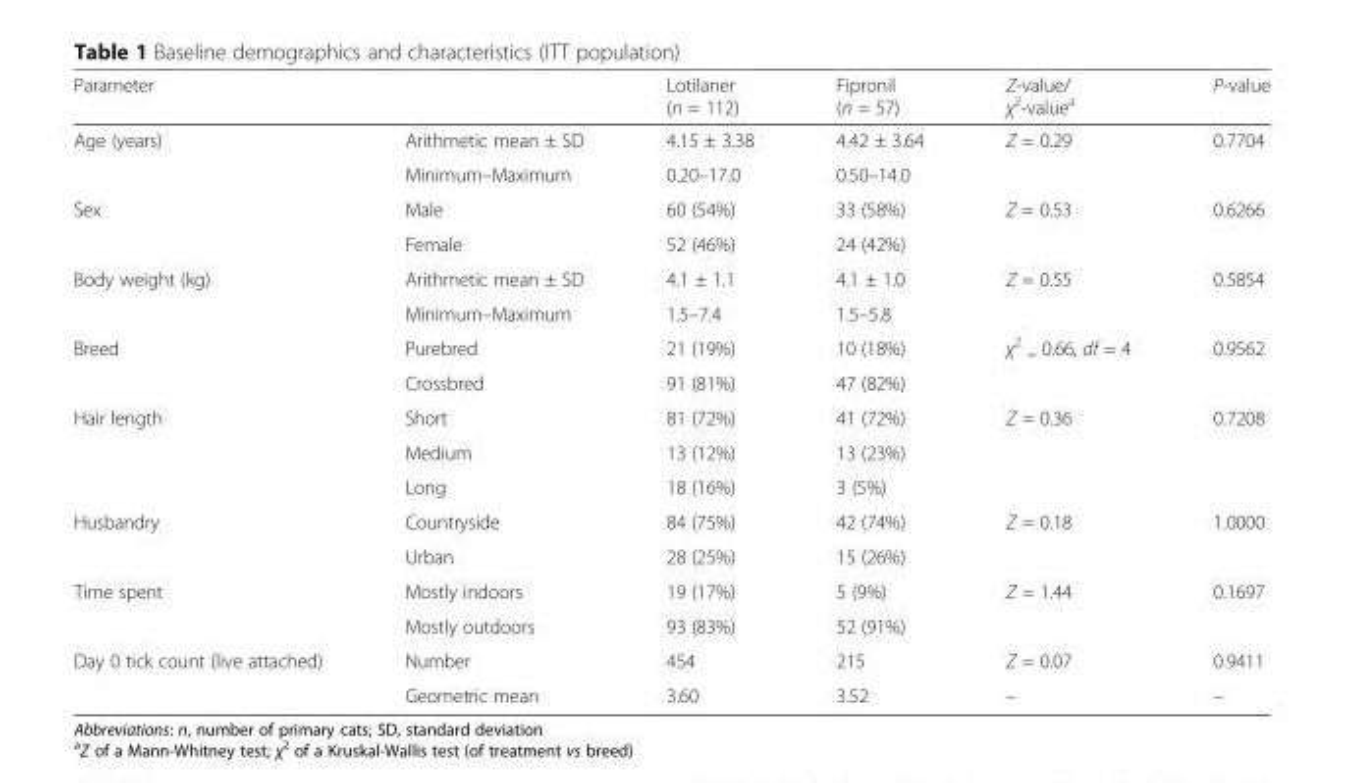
<table><thead><tr><td>Parameter</td><td></td><td>Lotilaner (n = 112)</td><td>Fipronil (n = 57)</td><td>Z-value/ χ<sup>2</sup>-value<sup>a</sup></td><td>P-value</td></tr></thead><tbody><tr><td rowspan="2">Age (years)</td><td>Arithmetic mean ± SD</td><td>4.15 ± 3.38</td><td>4.42 ± 3.64</td><td rowspan="2">Z = 0.29</td><td rowspan="2">0.7704</td></tr><tr><td>Minimum–Maximum</td><td>0.20–17.0</td><td>0.50–14.0</td></tr><tr><td rowspan="2">Sex</td><td>Male</td><td>60 (54%)</td><td>33 (58%)</td><td rowspan="2">Z = 0.53</td><td rowspan="2">0.6266</td></tr><tr><td>Female</td><td>52 (46%)</td><td>24 (42%)</td></tr><tr><td rowspan="2">Body weight (kg)</td><td>Arithmetic mean ± SD</td><td>4.1 ± 1.1</td><td>4.1 ± 1.0</td><td rowspan="2">Z = 0.55</td><td rowspan="2">0.5854</td></tr><tr><td>Minimum–Maximum</td><td>1.5–7.4</td><td>1.5–5.8</td></tr><tr><td rowspan="2">Breed</td><td>Purebred</td><td>21 (19%)</td><td>10 (18%)</td><td rowspan="2">χ<sup>2</sup> <sub>=</sub> 0.66, df = 4</td><td rowspan="2">0.9562</td></tr><tr><td>Crossbred</td><td>91 (81%)</td><td>47 (82%)</td></tr><tr><td rowspan="3">Hair length</td><td>Short</td><td>81 (72%)</td><td>41 (72%)</td><td rowspan="3">Z = 0.36</td><td rowspan="3">0.7208</td></tr><tr><td>Medium</td><td>13 (12%)</td><td>13 (23%)</td></tr><tr><td>Long</td><td>18 (16%)</td><td>3 (5%)</td></tr><tr><td rowspan="2">Husbandry</td><td>Countryside</td><td>84 (75%)</td><td>42 (74%)</td><td rowspan="2">Z = 0.18</td><td rowspan="2">1.0000</td></tr><tr><td>Urban</td><td>28 (25%)</td><td>15 (26%)</td></tr><tr><td rowspan="2">Time spent</td><td>Mostly indoors</td><td>19 (17%)</td><td>5 (9%)</td><td rowspan="2">Z = 1.44</td><td rowspan="2">0.1697</td></tr><tr><td>Mostly outdoors</td><td>93 (83%)</td><td>52 (91%)</td></tr><tr><td rowspan="2">Day 0 tick count (live attached)</td><td>Number</td><td>454</td><td>215</td><td>Z = 0.07</td><td>0.9411</td></tr><tr><td>Geometric mean</td><td>3.60</td><td>3.52</td><td>–</td><td>–</td></tr></tbody></table>